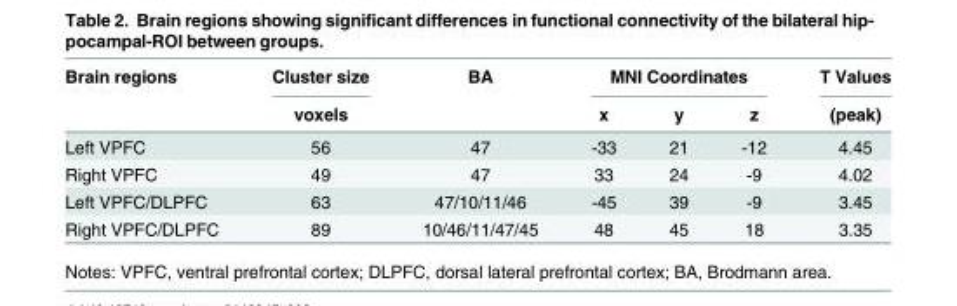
<table><thead><tr><td rowspan="2">Brain regions</td><td rowspan="2">Cluster size voxels</td><td rowspan="2">BA</td><td colspan="3">MNI Coordinates</td><td rowspan="2">T Values (peak)</td></tr><tr><td>x</td><td>y</td><td>z</td></tr></thead><tbody><tr><td>Left VPFC</td><td>56</td><td>47</td><td>-33</td><td>21</td><td>-12</td><td>4.45</td></tr><tr><td>Right VPFC</td><td>49</td><td>47</td><td>33</td><td>24</td><td>-9</td><td>4.02</td></tr><tr><td>Left VPFC/DLPFC</td><td>63</td><td>47/10/11/46</td><td>-45</td><td>39</td><td>-9</td><td>3.45</td></tr><tr><td>Right VPFC/DLPFC</td><td>89</td><td>10/46/11/47/45</td><td>48</td><td>45</td><td>18</td><td>3.35</td></tr></tbody></table>